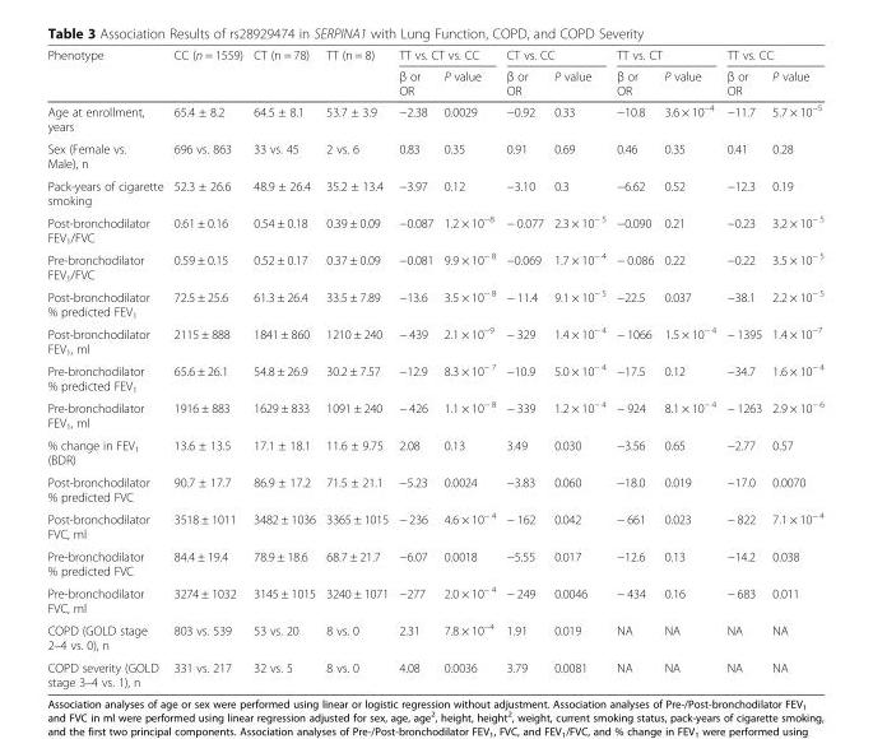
<table><thead><tr><td rowspan="2">Phenotype</td><td rowspan="2">CC (n = 1559)</td><td rowspan="2">CT (n = 78)</td><td rowspan="2">TT (n = 8)</td><td colspan="2">TT vs. CT vs. CC</td><td colspan="2">CT vs. CC</td><td colspan="2">TT vs. CT</td><td colspan="2">TT vs. CC</td></tr><tr><td>β or OR</td><td>P value</td><td>β or OR</td><td>P value</td><td>β or OR</td><td>P value</td><td>β or OR</td><td>P value</td></tr></thead><tbody><tr><td>Age at enrollment, years</td><td>65.4 ± 8.2</td><td>64.5 ± 8.1</td><td>53.7 ± 3.9</td><td>−2.38</td><td>0.0029</td><td>−0.92</td><td>0.33</td><td>−10.8</td><td>3.6 × 10<sup>−4</sup></td><td>−11.7</td><td>5.7 × 10<sup>−5</sup></td></tr><tr><td>Sex (Female vs. Male), n</td><td>696 vs. 863</td><td>33 vs. 45</td><td>2 vs. 6</td><td>0.83</td><td>0.35</td><td>0.91</td><td>0.69</td><td>0.46</td><td>0.35</td><td>0.41</td><td>0.28</td></tr><tr><td>Pack-years of cigarette smoking</td><td>52.3 ± 26.6</td><td>48.9 ± 26.4</td><td>35.2 ± 13.4</td><td>−3.97</td><td>0.12</td><td>−3.10</td><td>0.3</td><td>−6.62</td><td>0.52</td><td>−12.3</td><td>0.19</td></tr><tr><td>Post-bronchodilator FEV<sub>1</sub>/FVC</td><td>0.61 ± 0.16</td><td>0.54 ± 0.18</td><td>0.39 ± 0.09</td><td>−0.087</td><td>1.2 × 10<sup>−8</sup></td><td>− 0.077</td><td>2.3 × 10<sup>− 5</sup></td><td>−0.090</td><td>0.21</td><td>−0.23</td><td>3.2 × 10<sup>− 5</sup></td></tr><tr><td>Pre-bronchodilator FEV<sub>1</sub>/FVC</td><td>0.59 ± 0.15</td><td>0.52 ± 0.17</td><td>0.37 ± 0.09</td><td>−0.081</td><td>9.9 × 10<sup>− 8</sup></td><td>−0.069</td><td>1.7 × 10<sup>− 4</sup></td><td>− 0.086</td><td>0.22</td><td>−0.22</td><td>3.5 × 10<sup>− 5</sup></td></tr><tr><td>Post-bronchodilator % predicted FEV<sub>1</sub></td><td>72.5 ± 25.6</td><td>61.3 ± 26.4</td><td>33.5 ± 7.89</td><td>−13.6</td><td>3.5 × 10<sup>− 8</sup></td><td>− 11.4</td><td>9.1 × 10<sup>− 5</sup></td><td>−22.5</td><td>0.037</td><td>−38.1</td><td>2.2 × 10<sup>− 5</sup></td></tr><tr><td>Post-bronchodilator FEV<sub>1</sub>, ml</td><td>2115 ± 888</td><td>1841 ± 860</td><td>1210 ± 240</td><td>− 439</td><td>2.1 × 10<sup>−9</sup></td><td>− 329</td><td>1.4 × 10<sup>− 4</sup></td><td>− 1066</td><td>1.5 × 10<sup>− 4</sup></td><td>− 1395</td><td>1.4 × 10<sup>−7</sup></td></tr><tr><td>Pre-bronchodilator % predicted FEV<sub>1</sub></td><td>65.6 ± 26.1</td><td>54.8 ± 26.9</td><td>30.2 ± 7.57</td><td>−12.9</td><td>8.3 × 10<sup>− 7</sup></td><td>−10.9</td><td>5.0 × 10<sup>− 4</sup></td><td>−17.5</td><td>0.12</td><td>−34.7</td><td>1.6 × 10<sup>− 4</sup></td></tr><tr><td>Pre-bronchodilator FEV<sub>1</sub>, ml</td><td>1916 ± 883</td><td>1629 ± 833</td><td>1091 ± 240</td><td>− 426</td><td>1.1 × 10<sup>− 8</sup></td><td>− 339</td><td>1.2 × 10<sup>− 4</sup></td><td>− 924</td><td>8.1 × 10<sup>− 4</sup></td><td>− 1263</td><td>2.9 × 10<sup>− 6</sup></td></tr><tr><td>% change in FEV<sub>1</sub> (BDR)</td><td>13.6 ± 13.5</td><td>17.1 ± 18.1</td><td>11.6 ± 9.75</td><td>2.08</td><td>0.13</td><td>3.49</td><td>0.030</td><td>−3.56</td><td>0.65</td><td>−2.77</td><td>0.57</td></tr><tr><td>Post-bronchodilator % predicted FVC</td><td>90.7 ± 17.7</td><td>86.9 ± 17.2</td><td>71.5 ± 21.1</td><td>−5.23</td><td>0.0024</td><td>−3.83</td><td>0.060</td><td>−18.0</td><td>0.019</td><td>−17.0</td><td>0.0070</td></tr><tr><td>Post-bronchodilator FVC, ml</td><td>3518 ± 1011</td><td>3482 ± 1036</td><td>3365 ± 1015</td><td>− 236</td><td>4.6 × 10<sup>− 4</sup></td><td>− 162</td><td>0.042</td><td>− 661</td><td>0.023</td><td>− 822</td><td>7.1 × 10<sup>− 4</sup></td></tr><tr><td>Pre-bronchodilator % predicted FVC</td><td>84.4 ± 19.4</td><td>78.9 ± 18.6</td><td>68.7 ± 21.7</td><td>−6.07</td><td>0.0018</td><td>−5.55</td><td>0.017</td><td>−12.6</td><td>0.13</td><td>−14.2</td><td>0.038</td></tr><tr><td>Pre-bronchodilator FVC, ml</td><td>3274 ± 1032</td><td>3145 ± 1015</td><td>3240 ± 1071</td><td>−277</td><td>2.0 × 10<sup>− 4</sup></td><td>− 249</td><td>0.0046</td><td>− 434</td><td>0.16</td><td>− 683</td><td>0.011</td></tr><tr><td>COPD (GOLD stage 2–4 vs. 0), n</td><td>803 vs. 539</td><td>53 vs. 20</td><td>8 vs. 0</td><td>2.31</td><td>7.8 × 10<sup>−4</sup></td><td>1.91</td><td>0.019</td><td>NA</td><td>NA</td><td>NA</td><td>NA</td></tr><tr><td>COPD severity (GOLD stage 3–4 vs. 1), n</td><td>331 vs. 217</td><td>32 vs. 5</td><td>8 vs. 0</td><td>4.08</td><td>0.0036</td><td>3.79</td><td>0.0081</td><td>NA</td><td>NA</td><td>NA</td><td>NA</td></tr></tbody></table>